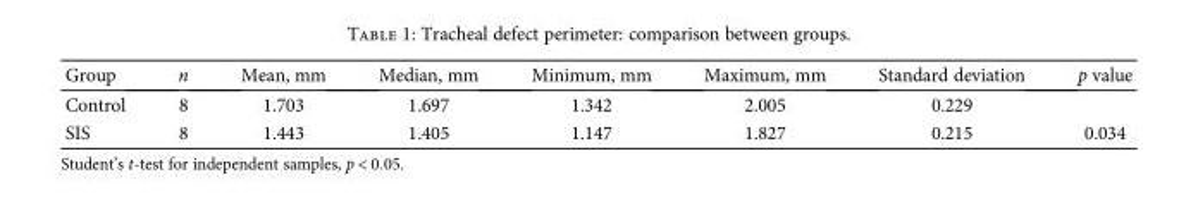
<table><thead><tr><td>Group</td><td>n</td><td>Mean, mm</td><td>Median, mm</td><td>Minimum, mm</td><td>Maximum, mm</td><td>Standard deviation</td><td>p value</td></tr></thead><tbody><tr><td>Control</td><td>8</td><td>1.703</td><td>1.697</td><td>1.342</td><td>2.005</td><td>0.229</td><td></td></tr><tr><td>SIS</td><td>8</td><td>1.443</td><td>1.405</td><td>1.147</td><td>1.827</td><td>0.215</td><td>0.034</td></tr></tbody></table>